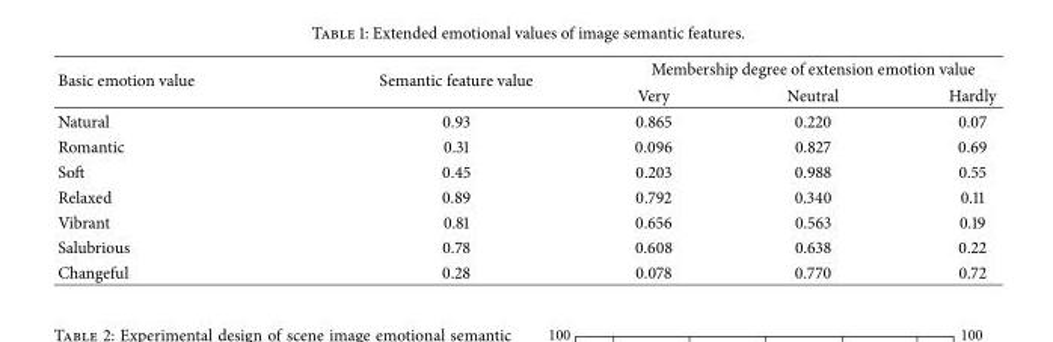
<table><thead><tr><td rowspan="2">Basic emotion value</td><td rowspan="2">Semantic feature value</td><td colspan="3">Membership degree of extension emotion value</td></tr><tr><td>Very</td><td>Neutral</td><td>Hardly</td></tr></thead><tbody><tr><td>Natural</td><td>0.93</td><td>0.865</td><td>0.220</td><td>0.07</td></tr><tr><td>Romantic</td><td>0.31</td><td>0.096</td><td>0.827</td><td>0.69</td></tr><tr><td>Soft</td><td>0.45</td><td>0.203</td><td>0.988</td><td>0.55</td></tr><tr><td>Relaxed</td><td>0.89</td><td>0.792</td><td>0.340</td><td>0.11</td></tr><tr><td>Vibrant</td><td>0.81</td><td>0.656</td><td>0.563</td><td>0.19</td></tr><tr><td>Salubrious</td><td>0.78</td><td>0.608</td><td>0.638</td><td>0.22</td></tr><tr><td>Changeful</td><td>0.28</td><td>0.078</td><td>0.770</td><td>0.72</td></tr></tbody></table>